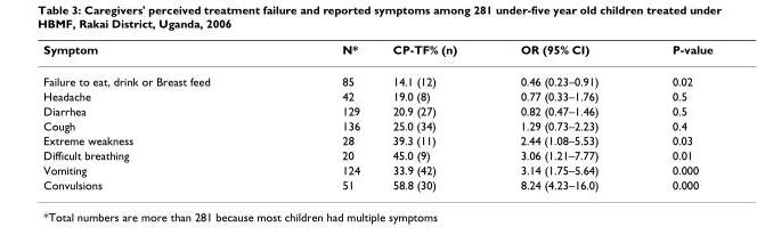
<table><thead><tr><td>Symptom</td><td>N*</td><td>CP-TF% (n)</td><td>OR (95% CI)</td><td>P-value</td></tr></thead><tbody><tr><td>Failure to eat, drink or Breast feed</td><td>85</td><td>14.1 (12)</td><td>0.46 (0.23–0.91)</td><td>0.02</td></tr><tr><td>Headache</td><td>42</td><td>19.0 (8)</td><td>0.77 (0.33–1.76)</td><td>0.5</td></tr><tr><td>Diarrhea</td><td>129</td><td>20.9 (27)</td><td>0.82 (0.47–1.46)</td><td>0.5</td></tr><tr><td>Cough</td><td>136</td><td>25.0 (34)</td><td>1.29 (0.73–2.23)</td><td>0.4</td></tr><tr><td>Extreme weakness</td><td>28</td><td>39.3 (11)</td><td>2.44 (1.08–5.53)</td><td>0.03</td></tr><tr><td>Difficult breathing</td><td>20</td><td>45.0 (9)</td><td>3.06 (1.21–7.77)</td><td>0.01</td></tr><tr><td>Vomiting</td><td>124</td><td>33.9 (42)</td><td>3.14 (1.75–5.64)</td><td>0.000</td></tr><tr><td>Convulsions</td><td>51</td><td>58.8 (30)</td><td>8.24 (4.23–16.0)</td><td>0.000</td></tr></tbody></table>